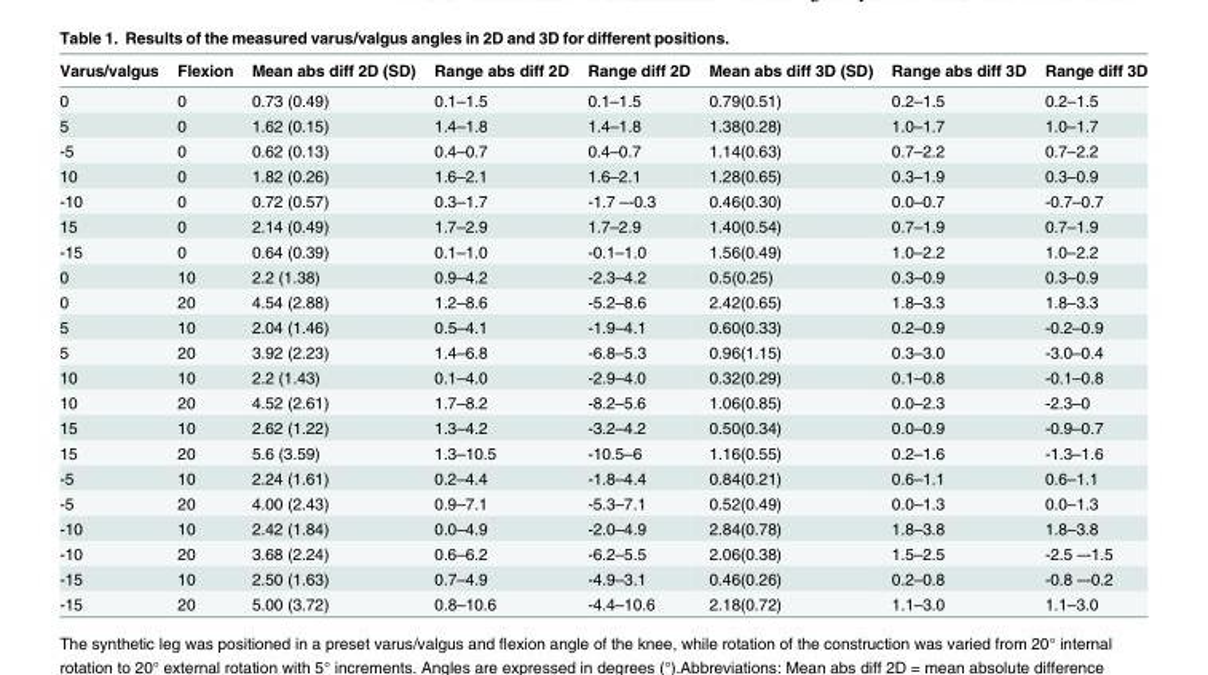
<table><thead><tr><td>Varus/valgus</td><td>Flexion</td><td>Mean abs diff 2D (SD)</td><td>Range abs diff 2D</td><td>Range diff 2D</td><td>Mean abs diff 3D (SD)</td><td>Range abs diff 3D</td><td>Range diff 3D</td></tr></thead><tbody><tr><td>0</td><td>0</td><td>0.73 (0.49)</td><td>0.1–1.5</td><td>0.1–1.5</td><td>0.79(0.51)</td><td>0.2–1.5</td><td>0.2–1.5</td></tr><tr><td>5</td><td>0</td><td>1.62 (0.15)</td><td>1.4–1.8</td><td>1.4–1.8</td><td>1.38(0.28)</td><td>1.0–1.7</td><td>1.0–1.7</td></tr><tr><td>-5</td><td>0</td><td>0.62 (0.13)</td><td>0.4–0.7</td><td>0.4–0.7</td><td>1.14(0.63)</td><td>0.7–2.2</td><td>0.7–2.2</td></tr><tr><td>10</td><td>0</td><td>1.82 (0.26)</td><td>1.6–2.1</td><td>1.6–2.1</td><td>1.28(0.65)</td><td>0.3–1.9</td><td>0.3–0.9</td></tr><tr><td>-10</td><td>0</td><td>0.72 (0.57)</td><td>0.3–1.7</td><td>-1.7 –-0.3</td><td>0.46(0.30)</td><td>0.0–0.7</td><td>-0.7–0.7</td></tr><tr><td>15</td><td>0</td><td>2.14 (0.49)</td><td>1.7–2.9</td><td>1.7–2.9</td><td>1.40(0.54)</td><td>0.7–1.9</td><td>0.7–1.9</td></tr><tr><td>-15</td><td>0</td><td>0.64 (0.39)</td><td>0.1–1.0</td><td>-0.1–1.0</td><td>1.56(0.49)</td><td>1.0–2.2</td><td>1.0–2.2</td></tr><tr><td>0</td><td>10</td><td>2.2 (1.38)</td><td>0.9–4.2</td><td>-2.3–4.2</td><td>0.5(0.25)</td><td>0.3–0.9</td><td>0.3–0.9</td></tr><tr><td>0</td><td>20</td><td>4.54 (2.88)</td><td>1.2–8.6</td><td>-5.2–8.6</td><td>2.42(0.65)</td><td>1.8–3.3</td><td>1.8–3.3</td></tr><tr><td>5</td><td>10</td><td>2.04 (1.46)</td><td>0.5–4.1</td><td>-1.9–4.1</td><td>0.60(0.33)</td><td>0.2–0.9</td><td>-0.2–0.9</td></tr><tr><td>5</td><td>20</td><td>3.92 (2.23)</td><td>1.4–6.8</td><td>-6.8–5.3</td><td>0.96(1.15)</td><td>0.3–3.0</td><td>-3.0–0.4</td></tr><tr><td>10</td><td>10</td><td>2.2 (1.43)</td><td>0.1–4.0</td><td>-2.9–4.0</td><td>0.32(0.29)</td><td>0.1–0.8</td><td>-0.1–0.8</td></tr><tr><td>10</td><td>20</td><td>4.52 (2.61)</td><td>1.7–8.2</td><td>-8.2–5.6</td><td>1.06(0.85)</td><td>0.0–2.3</td><td>-2.3–0</td></tr><tr><td>15</td><td>10</td><td>2.62 (1.22)</td><td>1.3–4.2</td><td>-3.2–4.2</td><td>0.50(0.34)</td><td>0.0–0.9</td><td>-0.9–0.7</td></tr><tr><td>15</td><td>20</td><td>5.6 (3.59)</td><td>1.3–10.5</td><td>-10.5–6</td><td>1.16(0.55)</td><td>0.2–1.6</td><td>-1.3–1.6</td></tr><tr><td>-5</td><td>10</td><td>2.24 (1.61)</td><td>0.2–4.4</td><td>-1.8–4.4</td><td>0.84(0.21)</td><td>0.6–1.1</td><td>0.6–1.1</td></tr><tr><td>-5</td><td>20</td><td>4.00 (2.43)</td><td>0.9–7.1</td><td>-5.3–7.1</td><td>0.52(0.49)</td><td>0.0–1.3</td><td>0.0–1.3</td></tr><tr><td>-10</td><td>10</td><td>2.42 (1.84)</td><td>0.0–4.9</td><td>-2.0–4.9</td><td>2.84(0.78)</td><td>1.8–3.8</td><td>1.8–3.8</td></tr><tr><td>-10</td><td>20</td><td>3.68 (2.24)</td><td>0.6–6.2</td><td>-6.2–5.5</td><td>2.06(0.38)</td><td>1.5–2.5</td><td>-2.5 –-1.5</td></tr><tr><td>-15</td><td>10</td><td>2.50 (1.63)</td><td>0.7–4.9</td><td>-4.9–3.1</td><td>0.46(0.26)</td><td>0.2–0.8</td><td>-0.8 –-0.2</td></tr><tr><td>-15</td><td>20</td><td>5.00 (3.72)</td><td>0.8–10.6</td><td>-4.4–10.6</td><td>2.18(0.72)</td><td>1.1–3.0</td><td>1.1–3.0</td></tr></tbody></table>